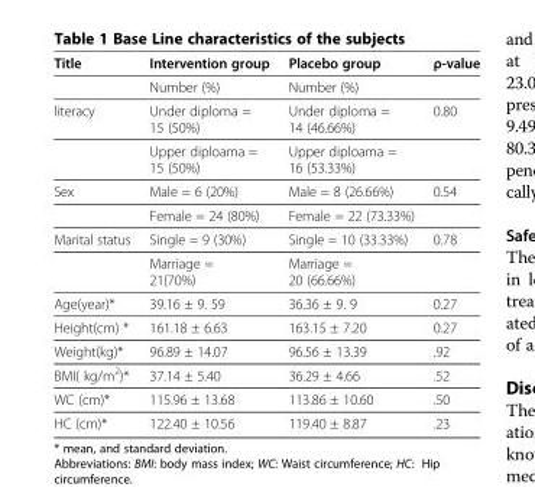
<table><thead><tr><td>Title</td><td>Intervention group</td><td>Placebo group</td><td>ρ-value</td></tr></thead><tbody><tr><td></td><td>Number (%)</td><td>Number (%)</td><td></td></tr><tr><td rowspan="2">literacy</td><td>Under diploma = 15 (50%)</td><td>Under diploma = 14 (46.66%)</td><td>0.80</td></tr><tr><td>Upper diploama = 15 (50%)</td><td>Upper diploama = 16 (53.33%)</td><td></td></tr><tr><td rowspan="2">Sex</td><td>Male = 6 (20%)</td><td>Male = 8 (26.66%)</td><td>0.54</td></tr><tr><td>Female = 24 (80%)</td><td>Female = 22 (73.33%)</td><td></td></tr><tr><td rowspan="2">Marital status</td><td>Single = 9 (30%)</td><td>Single = 10 (33.33%)</td><td>0.78</td></tr><tr><td>Marriage = 21(70%)</td><td>Marriage = 20 (66.66%)</td><td></td></tr><tr><td>Age(year)*</td><td>39.16 ± 9. 59</td><td>36.36 ± 9. 9</td><td>0.27</td></tr><tr><td>Height(cm) *</td><td>161.18 ± 6.63</td><td>163.15 ± 7.20</td><td>0.27</td></tr><tr><td>Weight(kg)*</td><td>96.89 ± 14.07</td><td>96.56 ± 13.39</td><td>.92</td></tr><tr><td>BMI( kg/m<sup>2</sup>)*</td><td>37.14 ± 5.40</td><td>36.29 ± 4.66</td><td>.52</td></tr><tr><td>WC (cm)*</td><td>115.96 ± 13.68</td><td>113.86 ± 10.60</td><td>.50</td></tr><tr><td>HC (cm)*</td><td>122.40 ± 10.56</td><td>119.40 ± 8.87</td><td>.23</td></tr></tbody></table>